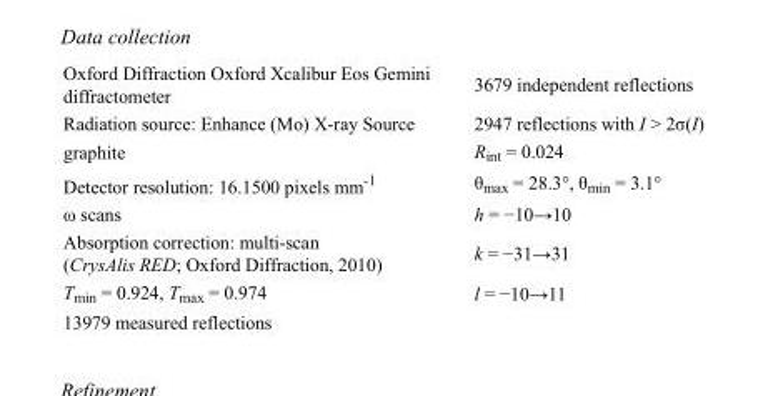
<table><tbody><tr><td>Oxford Diffraction Oxford Xcalibur Eos Gemini diffractometer</td><td>3679 independent reflections</td></tr><tr><td>Radiation source: Enhance (Mo) X-ray Source</td><td>2947 reflections with I &gt; 2σ(I)</td></tr><tr><td>graphite</td><td>R<sub>int</sub> = 0.024</td></tr><tr><td>Detector resolution: 16.1500 pixels mm<sup>-1</sup></td><td>θ<sub>max</sub> = 28.3°, θ<sub>min</sub> = 3.1°</td></tr><tr><td>ω scans</td><td>h = −10→10</td></tr><tr><td>Absorption correction: multi-scan (CrysAlis RED; Oxford Diffraction, 2010)</td><td>k = −31→31</td></tr><tr><td>T<sub>min</sub> = 0.924, T<sub>max</sub> = 0.974</td><td>l = −10→11</td></tr><tr><td>13979 measured reflections</td><td></td></tr></tbody></table>